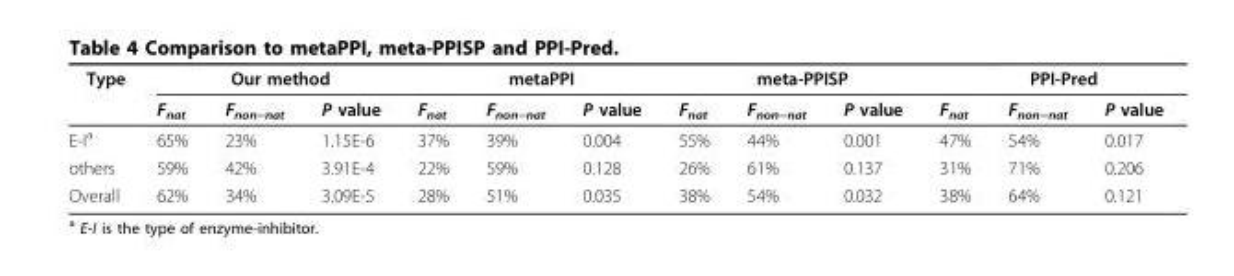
<table><thead><tr><td rowspan="2">Type</td><td colspan="3">Our method</td><td colspan="3">metaPPI</td><td colspan="3">meta-PPISP</td><td colspan="3">PPI-Pred</td></tr><tr><td>F<sub>nat</sub></td><td>F<sub>non−nat</sub></td><td>P value</td><td>F<sub>nat</sub></td><td>F<sub>non−nat</sub></td><td>P value</td><td>F<sub>nat</sub></td><td>F<sub>non−nat</sub></td><td>P value</td><td>F<sub>nat</sub></td><td>F<sub>non−nat</sub></td><td>P value</td></tr></thead><tbody><tr><td>E-I<sup>a</sup></td><td>65%</td><td>23%</td><td>1.15E-6</td><td>37%</td><td>39%</td><td>0.004</td><td>55%</td><td>44%</td><td>0.001</td><td>47%</td><td>54%</td><td>0.017</td></tr><tr><td>others</td><td>59%</td><td>42%</td><td>3.91E-4</td><td>22%</td><td>59%</td><td>0.128</td><td>26%</td><td>61%</td><td>0.137</td><td>31%</td><td>71%</td><td>0.206</td></tr><tr><td>Overall</td><td>62%</td><td>34%</td><td>3.09E-5</td><td>28%</td><td>51%</td><td>0.035</td><td>38%</td><td>54%</td><td>0.032</td><td>38%</td><td>64%</td><td>0.121</td></tr></tbody></table>